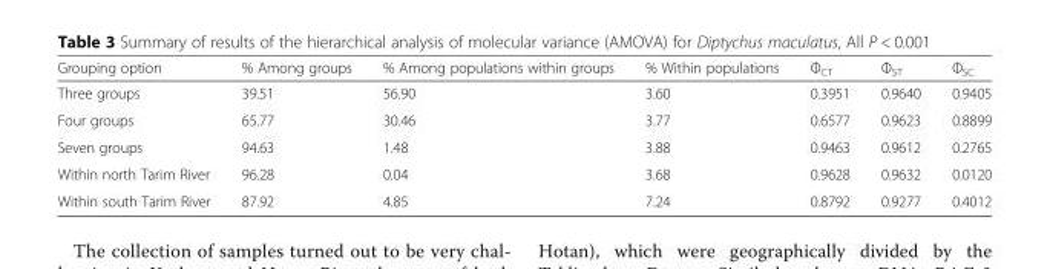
<table><thead><tr><td>Grouping option</td><td>% Among groups</td><td>% Among populations within groups</td><td>% Within populations</td><td>Φ<sub>CT</sub></td><td>Φ<sub>ST</sub></td><td>Φ<sub>SC</sub></td></tr></thead><tbody><tr><td>Three groups</td><td>39.51</td><td>56.90</td><td>3.60</td><td>0.3951</td><td>0.9640</td><td>0.9405</td></tr><tr><td>Four groups</td><td>65.77</td><td>30.46</td><td>3.77</td><td>0.6577</td><td>0.9623</td><td>0.8899</td></tr><tr><td>Seven groups</td><td>94.63</td><td>1.48</td><td>3.88</td><td>0.9463</td><td>0.9612</td><td>0.2765</td></tr><tr><td>Within north Tarim River</td><td>96.28</td><td>0.04</td><td>3.68</td><td>0.9628</td><td>0.9632</td><td>0.0120</td></tr><tr><td>Within south Tarim River</td><td>87.92</td><td>4.85</td><td>7.24</td><td>0.8792</td><td>0.9277</td><td>0.4012</td></tr></tbody></table>